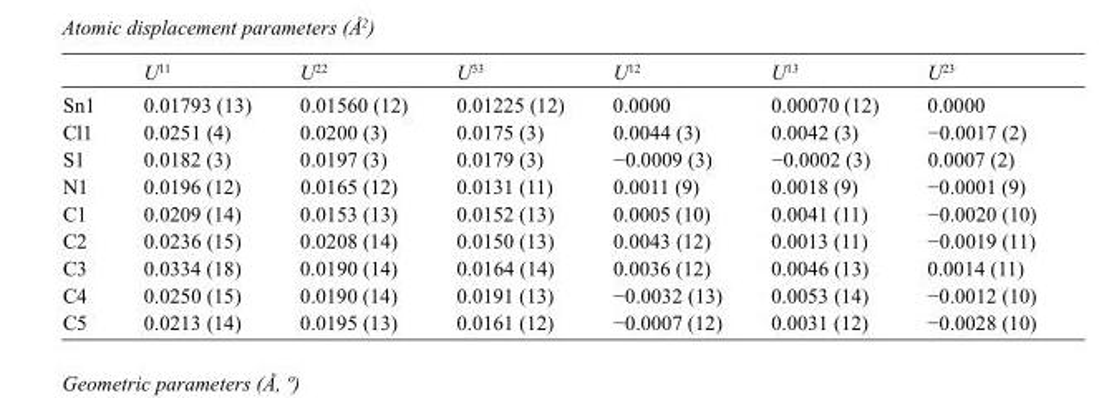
<table><thead><tr><td></td><td>U<sup>11</sup></td><td>U<sup>22</sup></td><td>U<sup>33</sup></td><td>U<sup>12</sup></td><td>U<sup>13</sup></td><td>U<sup>23</sup></td></tr></thead><tbody><tr><td>Sn1</td><td>0.01793 (13)</td><td>0.01560 (12)</td><td>0.01225 (12)</td><td>0.0000</td><td>0.00070 (12)</td><td>0.0000</td></tr><tr><td>Cl1</td><td>0.0251 (4)</td><td>0.0200 (3)</td><td>0.0175 (3)</td><td>0.0044 (3)</td><td>0.0042 (3)</td><td>−0.0017 (2)</td></tr><tr><td>S1</td><td>0.0182 (3)</td><td>0.0197 (3)</td><td>0.0179 (3)</td><td>−0.0009 (3)</td><td>−0.0002 (3)</td><td>0.0007 (2)</td></tr><tr><td>N1</td><td>0.0196 (12)</td><td>0.0165 (12)</td><td>0.0131 (11)</td><td>0.0011 (9)</td><td>0.0018 (9)</td><td>−0.0001 (9)</td></tr><tr><td>C1</td><td>0.0209 (14)</td><td>0.0153 (13)</td><td>0.0152 (13)</td><td>0.0005 (10)</td><td>0.0041 (11)</td><td>−0.0020 (10)</td></tr><tr><td>C2</td><td>0.0236 (15)</td><td>0.0208 (14)</td><td>0.0150 (13)</td><td>0.0043 (12)</td><td>0.0013 (11)</td><td>−0.0019 (11)</td></tr><tr><td>C3</td><td>0.0334 (18)</td><td>0.0190 (14)</td><td>0.0164 (14)</td><td>0.0036 (12)</td><td>0.0046 (13)</td><td>0.0014 (11)</td></tr><tr><td>C4</td><td>0.0250 (15)</td><td>0.0190 (14)</td><td>0.0191 (13)</td><td>−0.0032 (13)</td><td>0.0053 (14)</td><td>−0.0012 (10)</td></tr><tr><td>C5</td><td>0.0213 (14)</td><td>0.0195 (13)</td><td>0.0161 (12)</td><td>−0.0007 (12)</td><td>0.0031 (12)</td><td>−0.0028 (10)</td></tr></tbody></table>